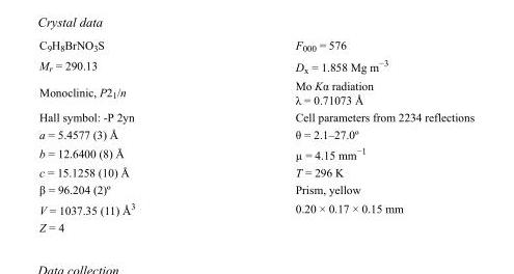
<table><tbody><tr><td>C<sub>9</sub>H<sub>8</sub>BrNO<sub>3</sub>S</td><td>F000 = 576</td></tr><tr><td>M<sub>r</sub> = 290.13</td><td>D<sub>x</sub> = 1.858 Mg m<sup>−3</sup></td></tr><tr><td>Monoclinic, P2<sub>1</sub>/n</td><td>Mo Kα radiation λ = 0.71073 Å</td></tr><tr><td>Hall symbol: -P 2yn</td><td>Cell parameters from 2234 reflections</td></tr><tr><td>a = 5.4577 (3) Å</td><td>θ = 2.1–27.0º</td></tr><tr><td>b = 12.6400 (8) Å</td><td>µ = 4.15 mm<sup>−1</sup></td></tr><tr><td>c = 15.1258 (10) Å</td><td>T = 296 K</td></tr><tr><td>β = 96.204 (2)º</td><td>Prism, yellow</td></tr><tr><td>V = 1037.35 (11) Å<sup>3</sup></td><td>0.20 × 0.17 × 0.15 mm</td></tr><tr><td>Z = 4</td><td></td></tr></tbody></table>